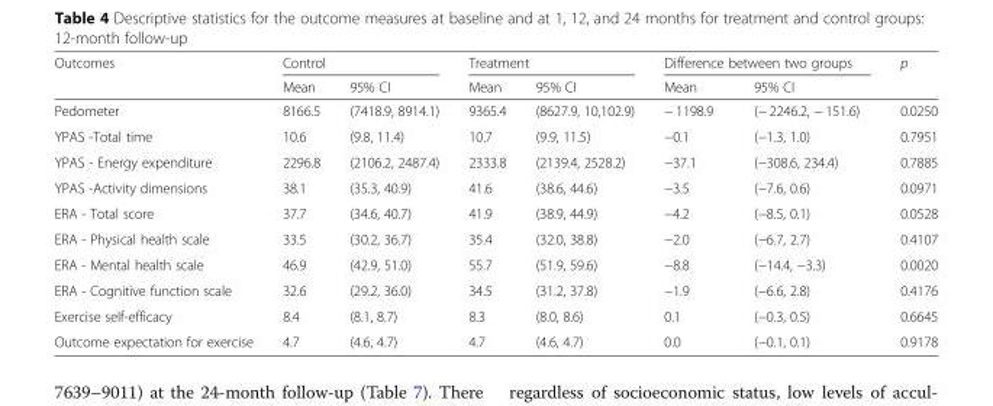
<table><thead><tr><td rowspan="2">Outcomes</td><td colspan="2">Control</td><td colspan="2">Treatment</td><td colspan="2">Difference between two groups</td><td rowspan="2">p</td></tr><tr><td>Mean</td><td>95% CI</td><td>Mean</td><td>95% CI</td><td>Mean</td><td>95% CI</td></tr></thead><tbody><tr><td>Pedometer</td><td>8166.5</td><td>(7418.9, 8914.1)</td><td>9365.4</td><td>(8627.9, 10,102.9)</td><td>− 1198.9</td><td>(− 2246.2, − 151.6)</td><td>0.0250</td></tr><tr><td>YPAS -Total time</td><td>10.6</td><td>(9.8, 11.4)</td><td>10.7</td><td>(9.9, 11.5)</td><td>−0.1</td><td>(−1.3, 1.0)</td><td>0.7951</td></tr><tr><td>YPAS - Energy expenditure</td><td>2296.8</td><td>(2106.2, 2487.4)</td><td>2333.8</td><td>(2139.4, 2528.2)</td><td>−37.1</td><td>(−308.6, 234.4)</td><td>0.7885</td></tr><tr><td>YPAS -Activity dimensions</td><td>38.1</td><td>(35.3, 40.9)</td><td>41.6</td><td>(38.6, 44.6)</td><td>−3.5</td><td>(−7.6, 0.6)</td><td>0.0971</td></tr><tr><td>ERA - Total score</td><td>37.7</td><td>(34.6, 40.7)</td><td>41.9</td><td>(38.9, 44.9)</td><td>−4.2</td><td>(−8.5, 0.1)</td><td>0.0528</td></tr><tr><td>ERA - Physical health scale</td><td>33.5</td><td>(30.2, 36.7)</td><td>35.4</td><td>(32.0, 38.8)</td><td>−2.0</td><td>(−6.7, 2.7)</td><td>0.4107</td></tr><tr><td>ERA - Mental health scale</td><td>46.9</td><td>(42.9, 51.0)</td><td>55.7</td><td>(51.9, 59.6)</td><td>−8.8</td><td>(−14.4, −3.3)</td><td>0.0020</td></tr><tr><td>ERA - Cognitive function scale</td><td>32.6</td><td>(29.2, 36.0)</td><td>34.5</td><td>(31.2, 37.8)</td><td>−1.9</td><td>(−6.6, 2.8)</td><td>0.4176</td></tr><tr><td>Exercise self-efficacy</td><td>8.4</td><td>(8.1, 8.7)</td><td>8.3</td><td>(8.0, 8.6)</td><td>0.1</td><td>(−0.3, 0.5)</td><td>0.6645</td></tr><tr><td>Outcome expectation for exercise</td><td>4.7</td><td>(4.6, 4.7)</td><td>4.7</td><td>(4.6, 4.7)</td><td>0.0</td><td>(−0.1, 0.1)</td><td>0.9178</td></tr></tbody></table>